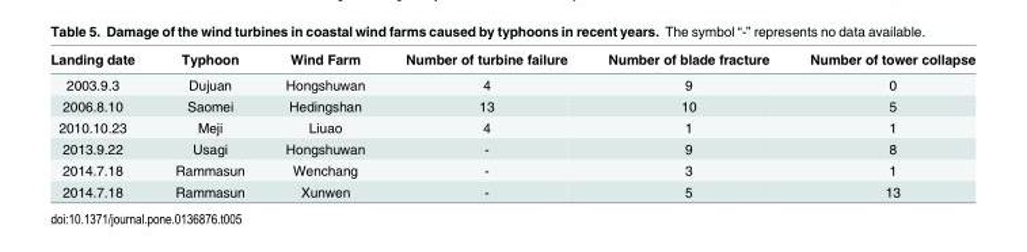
<table><thead><tr><td>Landing date</td><td>Typhoon</td><td>Wind Farm</td><td>Number of turbine failure</td><td>Number of blade fracture</td><td>Number of tower collapse</td></tr></thead><tbody><tr><td>2003.9.3</td><td>Dujuan</td><td>Hongshuwan</td><td>4</td><td>9</td><td>0</td></tr><tr><td>2006.8.10</td><td>Saomei</td><td>Hedingshan</td><td>13</td><td>10</td><td>5</td></tr><tr><td>2010.10.23</td><td>Meji</td><td>Liuao</td><td>4</td><td>1</td><td>1</td></tr><tr><td>2013.9.22</td><td>Usagi</td><td>Hongshuwan</td><td>-</td><td>9</td><td>8</td></tr><tr><td>2014.7.18</td><td>Rammasun</td><td>Wenchang</td><td>-</td><td>3</td><td>1</td></tr><tr><td>2014.7.18</td><td>Rammasun</td><td>Xunwen</td><td>-</td><td>5</td><td>13</td></tr></tbody></table>